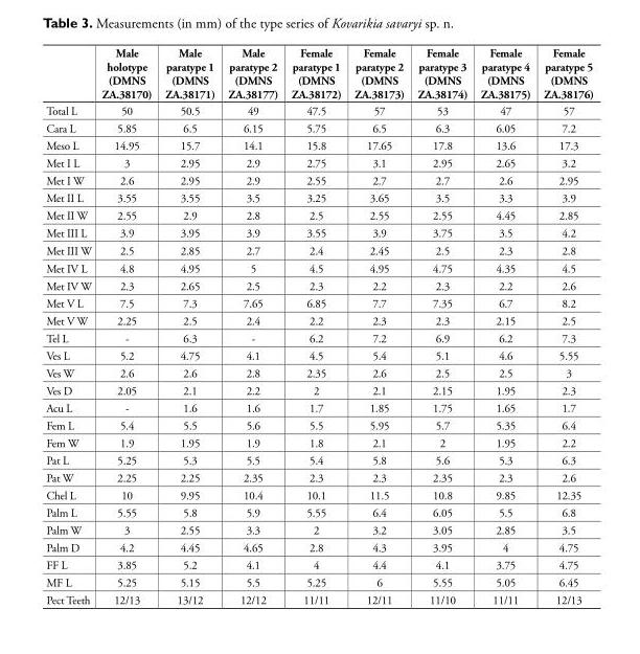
<table><thead><tr><td></td><td>Male holotype (DMNS ZA.38170)</td><td>Male paratype 1 (DMNS ZA.38171)</td><td>Male paratype 2 (DMNS ZA.38177)</td><td>Female paratype 1 (DMNS ZA.38172)</td><td>Female paratype 2 (DMNS ZA.38173)</td><td>Female paratype 3 (DMNS ZA.38174)</td><td>Female paratype 4 (DMNS ZA.38175)</td><td>Female paratype 5 (DMNS ZA.38176)</td></tr></thead><tbody><tr><td>Total L</td><td>50</td><td>50.5</td><td>49</td><td>47.5</td><td>57</td><td>53</td><td>47</td><td>57</td></tr><tr><td>Cara L</td><td>5.85</td><td>6.5</td><td>6.15</td><td>5.75</td><td>6.5</td><td>6.3</td><td>6.05</td><td>7.2</td></tr><tr><td>Meso L</td><td>14.95</td><td>15.7</td><td>14.1</td><td>15.8</td><td>17.65</td><td>17.8</td><td>13.6</td><td>17.3</td></tr><tr><td>Met I L</td><td>3</td><td>2.95</td><td>2.9</td><td>2.75</td><td>3.1</td><td>2.95</td><td>2.65</td><td>3.2</td></tr><tr><td>Met I W</td><td>2.6</td><td>2.95</td><td>2.9</td><td>2.55</td><td>2.7</td><td>2.7</td><td>2.6</td><td>2.95</td></tr><tr><td>Met II L</td><td>3.55</td><td>3.55</td><td>3.5</td><td>3.25</td><td>3.65</td><td>3.5</td><td>3.3</td><td>3.9</td></tr><tr><td>Met II W</td><td>2.55</td><td>2.9</td><td>2.8</td><td>2.5</td><td>2.55</td><td>2.55</td><td>4.45</td><td>2.85</td></tr><tr><td>Met III L</td><td>3.9</td><td>3.95</td><td>3.9</td><td>3.55</td><td>3.9</td><td>3.75</td><td>3.5</td><td>4.2</td></tr><tr><td>Met III W</td><td>2.5</td><td>2.85</td><td>2.7</td><td>2.4</td><td>2.45</td><td>2.5</td><td>2.3</td><td>2.8</td></tr><tr><td>Met IV L</td><td>4.8</td><td>4.95</td><td>5</td><td>4.5</td><td>4.95</td><td>4.75</td><td>4.35</td><td>4.5</td></tr><tr><td>Met IV W</td><td>2.3</td><td>2.65</td><td>2.5</td><td>2.3</td><td>2.2</td><td>2.3</td><td>2.2</td><td>2.6</td></tr><tr><td>Met V L</td><td>7.5</td><td>7.3</td><td>7.65</td><td>6.85</td><td>7.7</td><td>7.35</td><td>6.7</td><td>8.2</td></tr><tr><td>Met V W</td><td>2.25</td><td>2.5</td><td>2.4</td><td>2.2</td><td>2.3</td><td>2.3</td><td>2.15</td><td>2.5</td></tr><tr><td>Tel L</td><td>-</td><td>6.3</td><td>-</td><td>6.2</td><td>7.2</td><td>6.9</td><td>6.2</td><td>7.3</td></tr><tr><td>Ves L</td><td>5.2</td><td>4.75</td><td>4.1</td><td>4.5</td><td>5.4</td><td>5.1</td><td>4.6</td><td>5.55</td></tr><tr><td>Ves W</td><td>2.6</td><td>2.6</td><td>2.8</td><td>2.35</td><td>2.6</td><td>2.5</td><td>2.5</td><td>3</td></tr><tr><td>Ves D</td><td>2.05</td><td>2.1</td><td>2.2</td><td>2</td><td>2.1</td><td>2.15</td><td>1.95</td><td>2.3</td></tr><tr><td>Acu L</td><td>-</td><td>1.6</td><td>1.6</td><td>1.7</td><td>1.85</td><td>1.75</td><td>1.65</td><td>1.7</td></tr><tr><td>Fem L</td><td>5.4</td><td>5.5</td><td>5.6</td><td>5.5</td><td>5.95</td><td>5.7</td><td>5.35</td><td>6.4</td></tr><tr><td>Fem W</td><td>1.9</td><td>1.95</td><td>1.9</td><td>1.8</td><td>2.1</td><td>2</td><td>1.95</td><td>2.2</td></tr><tr><td>Pat L</td><td>5.25</td><td>5.3</td><td>5.5</td><td>5.4</td><td>5.8</td><td>5.6</td><td>5.3</td><td>6.3</td></tr><tr><td>Pat W</td><td>2.25</td><td>2.25</td><td>2.35</td><td>2.3</td><td>2.3</td><td>2.35</td><td>2.3</td><td>2.6</td></tr><tr><td>Chel L</td><td>10</td><td>9.95</td><td>10.4</td><td>10.1</td><td>11.5</td><td>10.8</td><td>9.85</td><td>12.35</td></tr><tr><td>Palm L</td><td>5.55</td><td>5.8</td><td>5.9</td><td>5.55</td><td>6.4</td><td>6.05</td><td>5.5</td><td>6.8</td></tr><tr><td>Palm W</td><td>3</td><td>2.55</td><td>3.3</td><td>2</td><td>3.2</td><td>3.05</td><td>2.85</td><td>3.5</td></tr><tr><td>Palm D</td><td>4.2</td><td>4.45</td><td>4.65</td><td>2.8</td><td>4.3</td><td>3.95</td><td>4</td><td>4.75</td></tr><tr><td>FF L</td><td>3.85</td><td>5.2</td><td>4.1</td><td>4</td><td>4.4</td><td>4.1</td><td>3.75</td><td>4.75</td></tr><tr><td>MF L</td><td>5.25</td><td>5.15</td><td>5.5</td><td>5.25</td><td>6</td><td>5.55</td><td>5.05</td><td>6.45</td></tr><tr><td>Pect Teeth</td><td>12/13</td><td>13/12</td><td>12/12</td><td>11/11</td><td>12/11</td><td>11/10</td><td>11/11</td><td>12/13</td></tr></tbody></table>